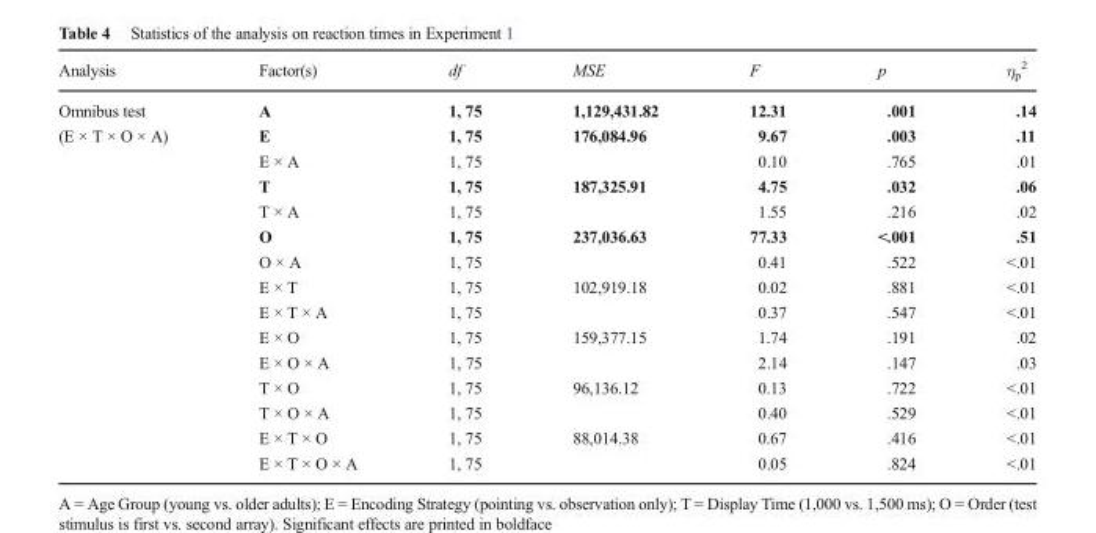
<table><thead><tr><td>Analysis</td><td>Factor(s)</td><td>df</td><td>MSE</td><td>F</td><td>p</td><td>η<sub>p</sub> <sup>2</sup></td></tr></thead><tbody><tr><td>Omnibus test</td><td>A</td><td>1, 75</td><td>1,129,431.82</td><td>12.31</td><td>.001</td><td>.14</td></tr><tr><td rowspan="14">(E × T × O × A)</td><td>E</td><td>1, 75</td><td>176,084.96</td><td>9.67</td><td>.003</td><td>.11</td></tr><tr><td>E × A</td><td>1, 75</td><td></td><td>0.10</td><td>.765</td><td>.01</td></tr><tr><td>T</td><td>1, 75</td><td>187,325.91</td><td>4.75</td><td>.032</td><td>.06</td></tr><tr><td>T × A</td><td>1, 75</td><td></td><td>1.55</td><td>.216</td><td>.02</td></tr><tr><td>O</td><td>1, 75</td><td>237,036.63</td><td>77.33</td><td>&lt;.001</td><td>.51</td></tr><tr><td>O × A</td><td>1, 75</td><td></td><td>0.41</td><td>.522</td><td>&lt;.01</td></tr><tr><td>E × T</td><td>1, 75</td><td>102,919.18</td><td>0.02</td><td>.881</td><td>&lt;.01</td></tr><tr><td>E × T × A</td><td>1, 75</td><td></td><td>0.37</td><td>.547</td><td>&lt;.01</td></tr><tr><td>E × O</td><td>1, 75</td><td>159,377.15</td><td>1.74</td><td>.191</td><td>.02</td></tr><tr><td>E × O × A</td><td>1, 75</td><td></td><td>2.14</td><td>.147</td><td>.03</td></tr><tr><td>T × O</td><td>1, 75</td><td>96,136.12</td><td>0.13</td><td>.722</td><td>&lt;.01</td></tr><tr><td>T × O × A</td><td>1, 75</td><td></td><td>0.40</td><td>.529</td><td>&lt;.01</td></tr><tr><td>E × T × O</td><td>1, 75</td><td>88,014.38</td><td>0.67</td><td>.416</td><td>&lt;.01</td></tr><tr><td>E × T × O × A</td><td>1, 75</td><td></td><td>0.05</td><td>.824</td><td>&lt;.01</td></tr></tbody></table>